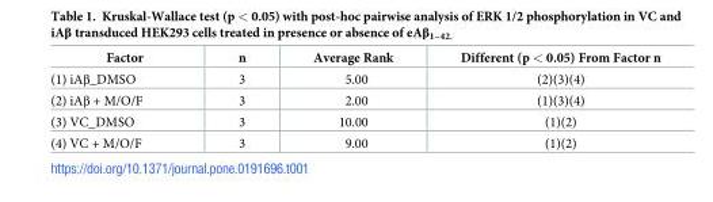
<table><thead><tr><td>Factor</td><td>n</td><td>Average Rank</td><td>Different (p &lt; 0.05) From Factor n</td></tr></thead><tbody><tr><td>(1) iAβ_DMSO</td><td>3</td><td>5.00</td><td>(2)(3)(4)</td></tr><tr><td>(2) iAβ + M/O/F</td><td>3</td><td>2.00</td><td>(1)(3)(4)</td></tr><tr><td>(3) VC_DMSO</td><td>3</td><td>10.00</td><td>(1)(2)</td></tr><tr><td>(4) VC + M/O/F</td><td>3</td><td>9.00</td><td>(1)(2)</td></tr></tbody></table>